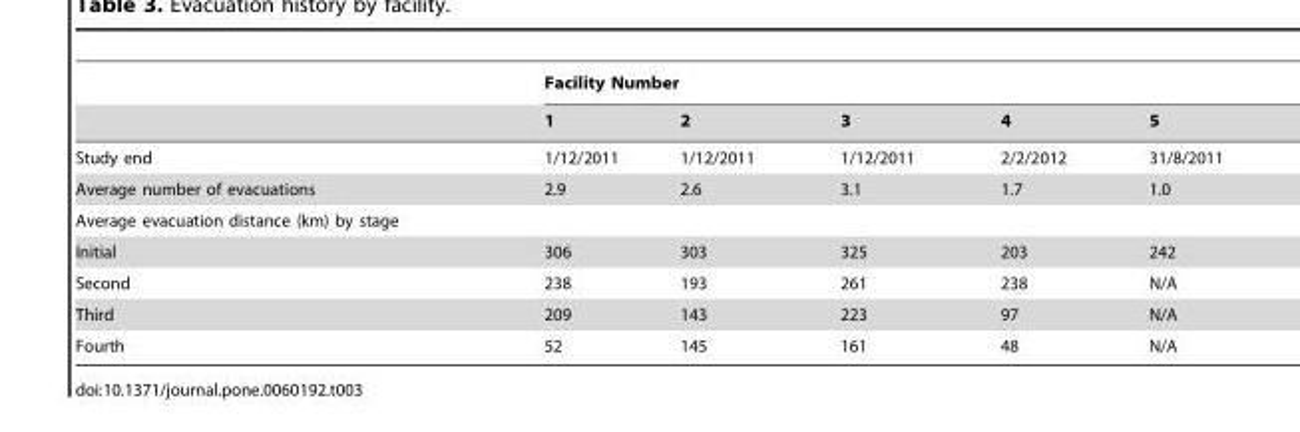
<table><thead><tr><td rowspan="2"></td><td colspan="5">Facility Number</td></tr><tr><td>1</td><td>2</td><td>3</td><td>4</td><td>5</td></tr></thead><tbody><tr><td>Study end</td><td>1/12/2011</td><td>1/12/2011</td><td>1/12/2011</td><td>2/2/2012</td><td>31/8/2011</td></tr><tr><td>Average number of evacuations</td><td>2.9</td><td>2.6</td><td>3.1</td><td>1.7</td><td>1.0</td></tr><tr><td colspan="6">Average evacuation distance (km) by stage</td></tr><tr><td>Initial</td><td>306</td><td>303</td><td>325</td><td>203</td><td>242</td></tr><tr><td>Second</td><td>238</td><td>193</td><td>261</td><td>238</td><td>N/A</td></tr><tr><td>Third</td><td>209</td><td>143</td><td>223</td><td>97</td><td>N/A</td></tr><tr><td>Fourth</td><td>52</td><td>145</td><td>161</td><td>48</td><td>N/A</td></tr></tbody></table>